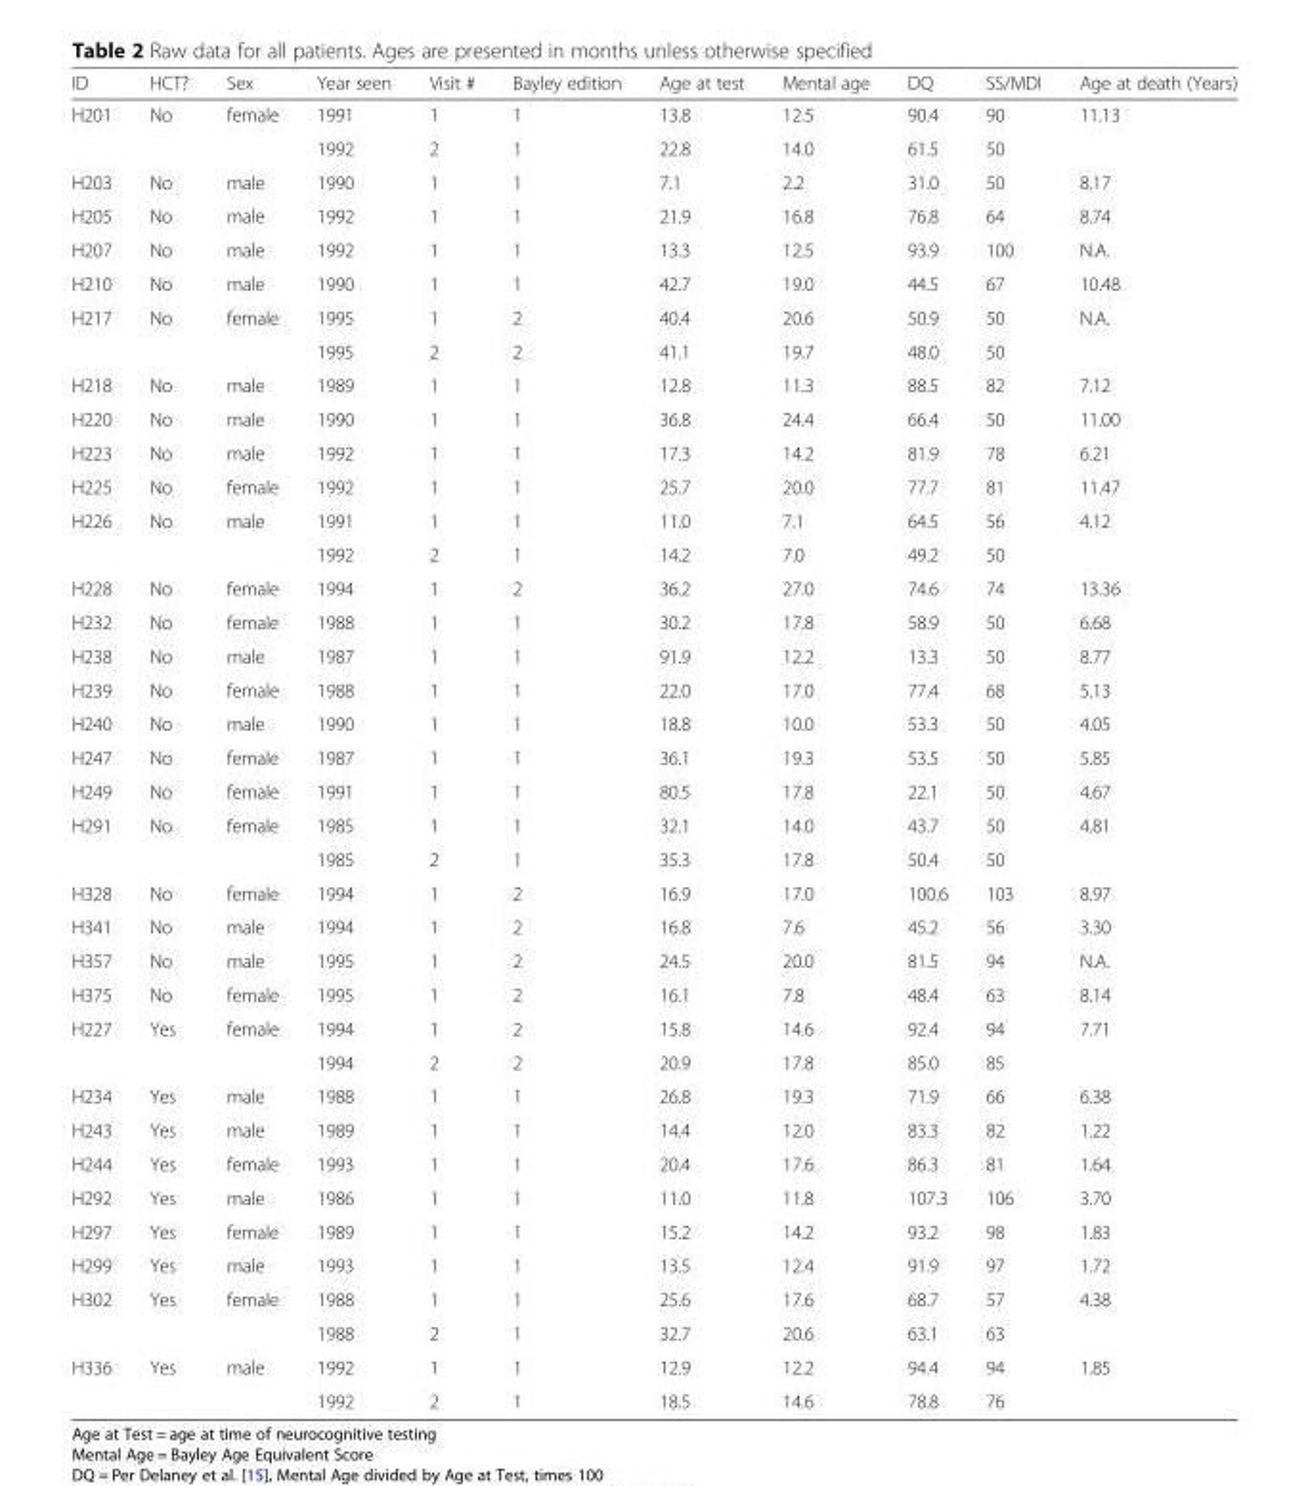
<table><thead><tr><td>ID</td><td>HCT?</td><td>Sex</td><td>Year seen</td><td>Visit #</td><td>Bayley edition</td><td>Age at test</td><td>Mental age</td><td>DQ</td><td>SS/MDI</td><td>Age at death (Years)</td></tr></thead><tbody><tr><td rowspan="2">H201</td><td>No</td><td>female</td><td>1991</td><td>1</td><td>1</td><td>13.8</td><td>12.5</td><td>90.4</td><td>90</td><td>11.13</td></tr><tr><td></td><td></td><td>1992</td><td>2</td><td>1</td><td>22.8</td><td>14.0</td><td>61.5</td><td>50</td><td></td></tr><tr><td>H203</td><td>No</td><td>male</td><td>1990</td><td>1</td><td>1</td><td>7.1</td><td>2.2</td><td>31.0</td><td>50</td><td>8.17</td></tr><tr><td>H205</td><td>No</td><td>male</td><td>1992</td><td>1</td><td>1</td><td>21.9</td><td>16.8</td><td>76.8</td><td>64</td><td>8.74</td></tr><tr><td>H207</td><td>No</td><td>male</td><td>1992</td><td>1</td><td>1</td><td>13.3</td><td>12.5</td><td>93.9</td><td>100</td><td>N.A.</td></tr><tr><td>H210</td><td>No</td><td>male</td><td>1990</td><td>1</td><td>1</td><td>42.7</td><td>19.0</td><td>44.5</td><td>67</td><td>10.48</td></tr><tr><td rowspan="2">H217</td><td>No</td><td>female</td><td>1995</td><td>1</td><td>2</td><td>40.4</td><td>20.6</td><td>50.9</td><td>50</td><td>N.A.</td></tr><tr><td></td><td></td><td>1995</td><td>2</td><td>2</td><td>41.1</td><td>19.7</td><td>48.0</td><td>50</td><td></td></tr><tr><td>H218</td><td>No</td><td>male</td><td>1989</td><td>1</td><td>1</td><td>12.8</td><td>11.3</td><td>88.5</td><td>82</td><td>7.12</td></tr><tr><td>H220</td><td>No</td><td>male</td><td>1990</td><td>1</td><td>1</td><td>36.8</td><td>24.4</td><td>66.4</td><td>50</td><td>11.00</td></tr><tr><td>H223</td><td>No</td><td>male</td><td>1992</td><td>1</td><td>1</td><td>17.3</td><td>14.2</td><td>81.9</td><td>78</td><td>6.21</td></tr><tr><td>H225</td><td>No</td><td>female</td><td>1992</td><td>1</td><td>1</td><td>25.7</td><td>20.0</td><td>77.7</td><td>81</td><td>11.47</td></tr><tr><td rowspan="2">H226</td><td>No</td><td>male</td><td>1991</td><td>1</td><td>1</td><td>11.0</td><td>7.1</td><td>64.5</td><td>56</td><td>4.12</td></tr><tr><td></td><td></td><td>1992</td><td>2</td><td>1</td><td>14.2</td><td>7.0</td><td>49.2</td><td>50</td><td></td></tr><tr><td>H228</td><td>No</td><td>female</td><td>1994</td><td>1</td><td>2</td><td>36.2</td><td>27.0</td><td>74.6</td><td>74</td><td>13.36</td></tr><tr><td>H232</td><td>No</td><td>female</td><td>1988</td><td>1</td><td>1</td><td>30.2</td><td>17.8</td><td>58.9</td><td>50</td><td>6.68</td></tr><tr><td>H238</td><td>No</td><td>male</td><td>1987</td><td>1</td><td>1</td><td>91.9</td><td>12.2</td><td>13.3</td><td>50</td><td>8.77</td></tr><tr><td>H239</td><td>No</td><td>female</td><td>1988</td><td>1</td><td>1</td><td>22.0</td><td>17.0</td><td>77.4</td><td>68</td><td>5.13</td></tr><tr><td>H240</td><td>No</td><td>male</td><td>1990</td><td>1</td><td>1</td><td>18.8</td><td>10.0</td><td>53.3</td><td>50</td><td>4.05</td></tr><tr><td>H247</td><td>No</td><td>female</td><td>1987</td><td>1</td><td>1</td><td>36.1</td><td>19.3</td><td>53.5</td><td>50</td><td>5.85</td></tr><tr><td>H249</td><td>No</td><td>female</td><td>1991</td><td>1</td><td>1</td><td>80.5</td><td>17.8</td><td>22.1</td><td>50</td><td>4.67</td></tr><tr><td rowspan="2">H291</td><td>No</td><td>female</td><td>1985</td><td>1</td><td>1</td><td>32.1</td><td>14.0</td><td>43.7</td><td>50</td><td>4.81</td></tr><tr><td></td><td></td><td>1985</td><td>2</td><td>1</td><td>35.3</td><td>17.8</td><td>50.4</td><td>50</td><td></td></tr><tr><td>H328</td><td>No</td><td>female</td><td>1994</td><td>1</td><td>2</td><td>16.9</td><td>17.0</td><td>100.6</td><td>103</td><td>8.97</td></tr><tr><td>H341</td><td>No</td><td>male</td><td>1994</td><td>1</td><td>2</td><td>16.8</td><td>7.6</td><td>45.2</td><td>56</td><td>3.30</td></tr><tr><td>H357</td><td>No</td><td>male</td><td>1995</td><td>1</td><td>2</td><td>24.5</td><td>20.0</td><td>81.5</td><td>94</td><td>N.A.</td></tr><tr><td>H375</td><td>No</td><td>female</td><td>1995</td><td>1</td><td>2</td><td>16.1</td><td>7.8</td><td>48.4</td><td>63</td><td>8.14</td></tr><tr><td rowspan="2">H227</td><td>Yes</td><td>female</td><td>1994</td><td>1</td><td>2</td><td>15.8</td><td>14.6</td><td>92.4</td><td>94</td><td>7.71</td></tr><tr><td></td><td></td><td>1994</td><td>2</td><td>2</td><td>20.9</td><td>17.8</td><td>85.0</td><td>85</td><td></td></tr><tr><td>H234</td><td>Yes</td><td>male</td><td>1988</td><td>1</td><td>1</td><td>26.8</td><td>19.3</td><td>71.9</td><td>66</td><td>6.38</td></tr><tr><td>H243</td><td>Yes</td><td>male</td><td>1989</td><td>1</td><td>1</td><td>14.4</td><td>12.0</td><td>83.3</td><td>82</td><td>1.22</td></tr><tr><td>H244</td><td>Yes</td><td>female</td><td>1993</td><td>1</td><td>1</td><td>20.4</td><td>17.6</td><td>86.3</td><td>81</td><td>1.64</td></tr><tr><td>H292</td><td>Yes</td><td>male</td><td>1986</td><td>1</td><td>1</td><td>11.0</td><td>11.8</td><td>107.3</td><td>106</td><td>3.70</td></tr><tr><td>H297</td><td>Yes</td><td>female</td><td>1989</td><td>1</td><td>1</td><td>15.2</td><td>14.2</td><td>93.2</td><td>98</td><td>1.83</td></tr><tr><td>H299</td><td>Yes</td><td>male</td><td>1993</td><td>1</td><td>1</td><td>13.5</td><td>12.4</td><td>91.9</td><td>97</td><td>1.72</td></tr><tr><td rowspan="2">H302</td><td>Yes</td><td>female</td><td>1988</td><td>1</td><td>1</td><td>25.6</td><td>17.6</td><td>68.7</td><td>57</td><td>4.38</td></tr><tr><td></td><td></td><td>1988</td><td>2</td><td>1</td><td>32.7</td><td>20.6</td><td>63.1</td><td>63</td><td></td></tr><tr><td rowspan="2">H336</td><td>Yes</td><td>male</td><td>1992</td><td>1</td><td>1</td><td>12.9</td><td>12.2</td><td>94.4</td><td>94</td><td>1.85</td></tr><tr><td></td><td></td><td>1992</td><td>2</td><td>1</td><td>18.5</td><td>14.6</td><td>78.8</td><td>76</td><td></td></tr></tbody></table>